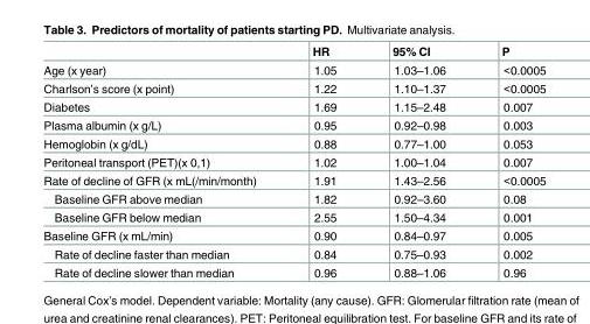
<table><thead><tr><td></td><td>HR</td><td>95% CI</td><td>P</td></tr></thead><tbody><tr><td>Age (x year)</td><td>1.05</td><td>1.03–1.06</td><td>&lt;0.0005</td></tr><tr><td>Charlson’s score (x point)</td><td>1.22</td><td>1.10–1.37</td><td>&lt;0.0005</td></tr><tr><td>Diabetes</td><td>1.69</td><td>1.15–2.48</td><td>0.007</td></tr><tr><td>Plasma albumin (x g/L)</td><td>0.95</td><td>0.92–0.98</td><td>0.003</td></tr><tr><td>Hemoglobin (x g/dL)</td><td>0.88</td><td>0.77–1.00</td><td>0.053</td></tr><tr><td>Peritoneal transport (PET)(x 0,1)</td><td>1.02</td><td>1.00–1.04</td><td>0.007</td></tr><tr><td>Rate of decline of GFR (x mL(/min/month)</td><td>1.91</td><td>1.43–2.56</td><td>&lt;0.0005</td></tr><tr><td>Baseline GFR above median</td><td>1.82</td><td>0.92–3.60</td><td>0.08</td></tr><tr><td>Baseline GFR below median</td><td>2.55</td><td>1.50–4.34</td><td>0.001</td></tr><tr><td>Baseline GFR (x mL/min)</td><td>0.90</td><td>0.84–0.97</td><td>0.005</td></tr><tr><td>Rate of decline faster than median</td><td>0.84</td><td>0.75–0.93</td><td>0.002</td></tr><tr><td>Rate of decline slower than median</td><td>0.96</td><td>0.88–1.06</td><td>0.96</td></tr></tbody></table>